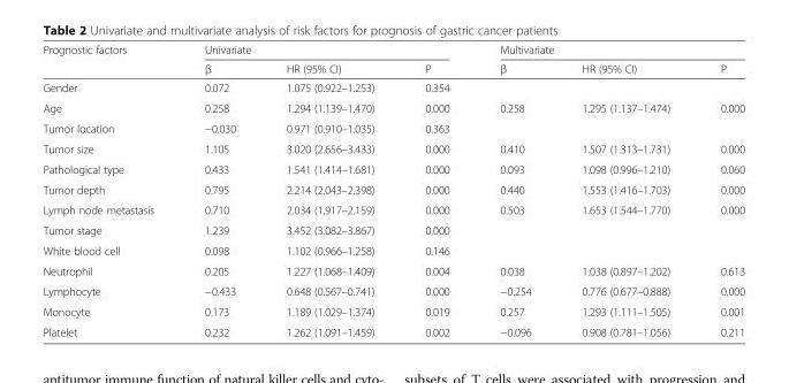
<table><thead><tr><td rowspan="2">Prognostic factors</td><td colspan="3">Univariate</td><td colspan="3">Multivariate</td></tr><tr><td>β</td><td>HR (95% CI)</td><td>P</td><td>β</td><td>HR (95% CI)</td><td>P</td></tr></thead><tbody><tr><td>Gender</td><td>0.072</td><td>1.075 (0.922–1.253)</td><td>0.354</td><td></td><td></td><td></td></tr><tr><td>Age</td><td>0.258</td><td>1.294 (1.139–1.470)</td><td>0.000</td><td>0.258</td><td>1.295 (1.137–1.474)</td><td>0.000</td></tr><tr><td>Tumor location</td><td>−0.030</td><td>0.971 (0.910–1.035)</td><td>0.363</td><td></td><td></td><td></td></tr><tr><td>Tumor size</td><td>1.105</td><td>3.020 (2.656–3.433)</td><td>0.000</td><td>0.410</td><td>1.507 (1.313–1.731)</td><td>0.000</td></tr><tr><td>Pathological type</td><td>0.433</td><td>1.541 (1.414–1.681)</td><td>0.000</td><td>0.093</td><td>1.098 (0.996–1.210)</td><td>0.060</td></tr><tr><td>Tumor depth</td><td>0.795</td><td>2.214 (2.043–2.398)</td><td>0.000</td><td>0.440</td><td>1.553 (1.416–1.703)</td><td>0.000</td></tr><tr><td>Lymph node metastasis</td><td>0.710</td><td>2.034 (1.917–2.159)</td><td>0.000</td><td>0.503</td><td>1.653 (1.544–1.770)</td><td>0.000</td></tr><tr><td>Tumor stage</td><td>1.239</td><td>3.452 (3.082–3.867)</td><td>0.000</td><td></td><td></td><td></td></tr><tr><td>White blood cell</td><td>0.098</td><td>1.102 (0.966–1.258)</td><td>0.146</td><td></td><td></td><td></td></tr><tr><td>Neutrophil</td><td>0.205</td><td>1.227 (1.068–1.409)</td><td>0.004</td><td>0.038</td><td>1.038 (0.897–1.202)</td><td>0.613</td></tr><tr><td>Lymphocyte</td><td>−0.433</td><td>0.648 (0.567–0.741)</td><td>0.000</td><td>−0.254</td><td>0.776 (0.677–0.888)</td><td>0.000</td></tr><tr><td>Monocyte</td><td>0.173</td><td>1.189 (1.029–1.374)</td><td>0.019</td><td>0.257</td><td>1.293 (1.111–1.505)</td><td>0.001</td></tr><tr><td>Platelet</td><td>0.232</td><td>1.262 (1.091–1.459)</td><td>0.002</td><td>−0.096</td><td>0.908 (0.781–1.056)</td><td>0.211</td></tr></tbody></table>